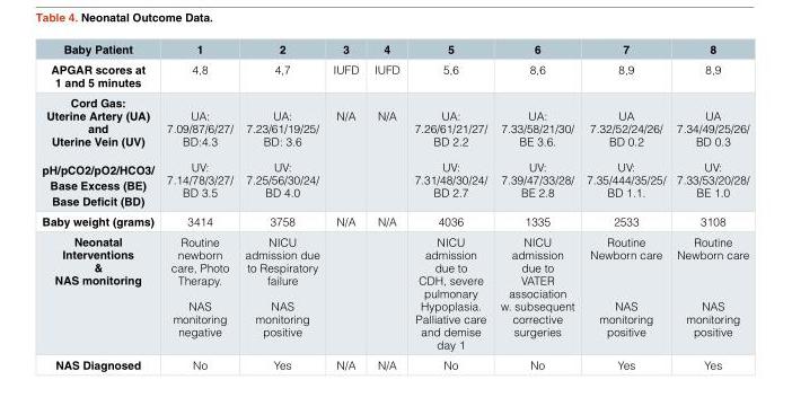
<table><thead><tr><td>Baby Patient</td><td>1</td><td>2</td><td>3</td><td>4</td><td>5</td><td>6</td><td>7</td><td>8</td></tr></thead><tbody><tr><td>APGAR scores at 1 and 5 minutes</td><td>4,8</td><td>4,7</td><td>IUFD</td><td>IUFD</td><td>5,6</td><td>8,6</td><td>8,9</td><td>8,9</td></tr><tr><td>Cord Gas: Uterine Artery (UA) and Uterine Vein (UV) pH/pCO2/pO2/HCO3/ Base Excess (BE) Base Deficit (BD)</td><td>UA: 7.09/87/6/27/ BD:4.3 UV: 7.14/78/3/27/ BD 3.5</td><td>UA: 7.23/61/19/25/ BD: 3.6 UV: 7.25/56/30/24/ BD 4.0</td><td>N/A</td><td>N/A</td><td>UA: 7.26/61/21/27/ BD 2.2 UV: 7.31/48/30/24/ BD 2.7</td><td>UA: 7.33/58/21/30/ BE 3.6. UV: 7.39/47/33/28/ BE 2.8</td><td>UA 7.32/52/24/26/ BD 0.2 UV: 7.35/444/35/25/ BD 1.1.</td><td>UA 7.34/49/25/26/ BD 0.3 UV: 7.33/53/20/28/ BE 1.0</td></tr><tr><td>Baby weight (grams)</td><td>3414</td><td>3758</td><td>N/A</td><td>N/A</td><td>4036</td><td>1335</td><td>2533</td><td>3108</td></tr><tr><td>Neonatal Interventions &amp; NAS monitoring</td><td>Routine newborn care, Photo Therapy. NAS monitoring negative</td><td>NICU admission due to Respiratory failure NAS monitoring positive</td><td></td><td></td><td>NICU admission due to CDH, severe pulmonary Hypoplasia. Palliative care and demise day 1</td><td>NICU admission due to VATER association w. subsequent corrective surgeries</td><td>Routine Newborn care NAS monitoring positive</td><td>Routine Newborn care NAS monitoring positive</td></tr><tr><td>NAS Diagnosed</td><td>No</td><td>Yes</td><td>N/A</td><td>N/A</td><td>No</td><td>No</td><td>Yes</td><td>Yes</td></tr></tbody></table>